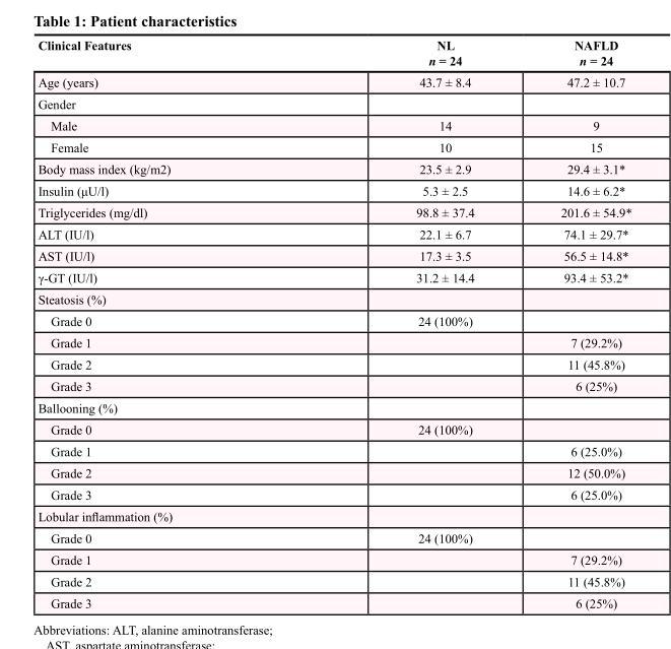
<table><thead><tr><td>Clinical Features</td><td>NL n = 24</td><td>NAFLD n = 24</td></tr></thead><tbody><tr><td>Age (years)</td><td>43.7 ± 8.4</td><td>47.2 ± 10.7</td></tr><tr><td colspan="3">Gender</td></tr><tr><td>Male</td><td>14</td><td>9</td></tr><tr><td>Female</td><td>10</td><td>15</td></tr><tr><td>Body mass index (kg/m2)</td><td>23.5 ± 2.9</td><td>29.4 ± 3.1*</td></tr><tr><td>Insulin (μU/l)</td><td>5.3 ± 2.5</td><td>14.6 ± 6.2*</td></tr><tr><td>Triglycerides (mg/dl)</td><td>98.8 ± 37.4</td><td>201.6 ± 54.9*</td></tr><tr><td>ALT (IU/l)</td><td>22.1 ± 6.7</td><td>74.1 ± 29.7*</td></tr><tr><td>AST (IU/l)</td><td>17.3 ± 3.5</td><td>56.5 ± 14.8*</td></tr><tr><td>γ-GT (IU/l)</td><td>31.2 ± 14.4</td><td>93.4 ± 53.2*</td></tr><tr><td colspan="3">Steatosis (%)</td></tr><tr><td>Grade 0</td><td>24 (100%)</td><td></td></tr><tr><td>Grade 1</td><td></td><td>7 (29.2%)</td></tr><tr><td>Grade 2</td><td></td><td>11 (45.8%)</td></tr><tr><td>Grade 3</td><td></td><td>6 (25%)</td></tr><tr><td colspan="3">Ballooning (%)</td></tr><tr><td>Grade 0</td><td>24 (100%)</td><td></td></tr><tr><td>Grade 1</td><td></td><td>6 (25.0%)</td></tr><tr><td>Grade 2</td><td></td><td>12 (50.0%)</td></tr><tr><td>Grade 3</td><td></td><td>6 (25.0%)</td></tr><tr><td colspan="3">Lobular inflammation (%)</td></tr><tr><td>Grade 0</td><td>24 (100%)</td><td></td></tr><tr><td>Grade 1</td><td></td><td>7 (29.2%)</td></tr><tr><td>Grade 2</td><td></td><td>11 (45.8%)</td></tr><tr><td>Grade 3</td><td></td><td>6 (25%)</td></tr></tbody></table>